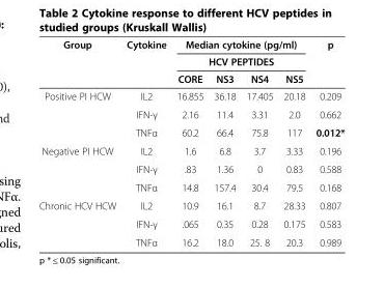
<table><thead><tr><td rowspan="3">Group</td><td rowspan="3">Cytokine</td><td rowspan="2" colspan="4">Median cytokine (pg/ml) HCV PEPTIDES</td><td rowspan="3">p</td></tr><tr></tr><tr><td>CORE</td><td>NS3</td><td>NS4</td><td>NS5</td></tr></thead><tbody><tr><td rowspan="3">Positive PI HCW</td><td>IL2</td><td>16.855</td><td>36.18</td><td>17.405</td><td>20.18</td><td>0.209</td></tr><tr><td>IFN-γ</td><td>2.16</td><td>11.4</td><td>3.31</td><td>2.0</td><td>0.662</td></tr><tr><td>TNFα</td><td>60.2</td><td>66.4</td><td>75.8</td><td>117</td><td>0.012*</td></tr><tr><td rowspan="3">Negative PI HCW</td><td>IL2</td><td>1.6</td><td>6.8</td><td>3.7</td><td>3.33</td><td>0.196</td></tr><tr><td>IFN-γ</td><td>.83</td><td>1.36</td><td>0</td><td>0.83</td><td>0.588</td></tr><tr><td>TNFα</td><td>14.8</td><td>157.4</td><td>30.4</td><td>79.5</td><td>0.168</td></tr><tr><td rowspan="3">Chronic HCV HCW</td><td>IL2</td><td>10.9</td><td>16.1</td><td>8.7</td><td>28.33</td><td>0.807</td></tr><tr><td>IFN-γ</td><td>.065</td><td>0.35</td><td>0.28</td><td>0.175</td><td>0.583</td></tr><tr><td>TNFα</td><td>16.2</td><td>18.0</td><td>25. 8</td><td>20.3</td><td>0.989</td></tr></tbody></table>